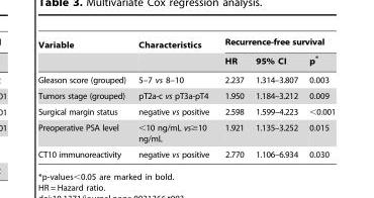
<table><thead><tr><td rowspan="2">Variable</td><td rowspan="2">Characteristics</td><td colspan="3">Recurrence-free survival</td></tr><tr><td>HR</td><td>95% CI</td><td>p*</td></tr></thead><tbody><tr><td>Gleason score (grouped)</td><td>5–7 vs 8–10</td><td>2.237</td><td>1.314–3.807</td><td>0.003</td></tr><tr><td>Tumors stage (grouped)</td><td>pT2a-c vs pT3a-pT4</td><td>1.950</td><td>1.184–3.212</td><td>0.009</td></tr><tr><td>Surgical margin status</td><td>negative vs positive</td><td>2.598</td><td>1.599–4.223</td><td>&lt;0.001</td></tr><tr><td>Preoperative PSA level</td><td>&lt;10 ng/mL vs≥10 ng/mL</td><td>1.921</td><td>1.135–3.252</td><td>0.015</td></tr><tr><td>CT10 immunoreactivity</td><td>negative vs positive</td><td>2.770</td><td>1.106–6.934</td><td>0.030</td></tr></tbody></table>